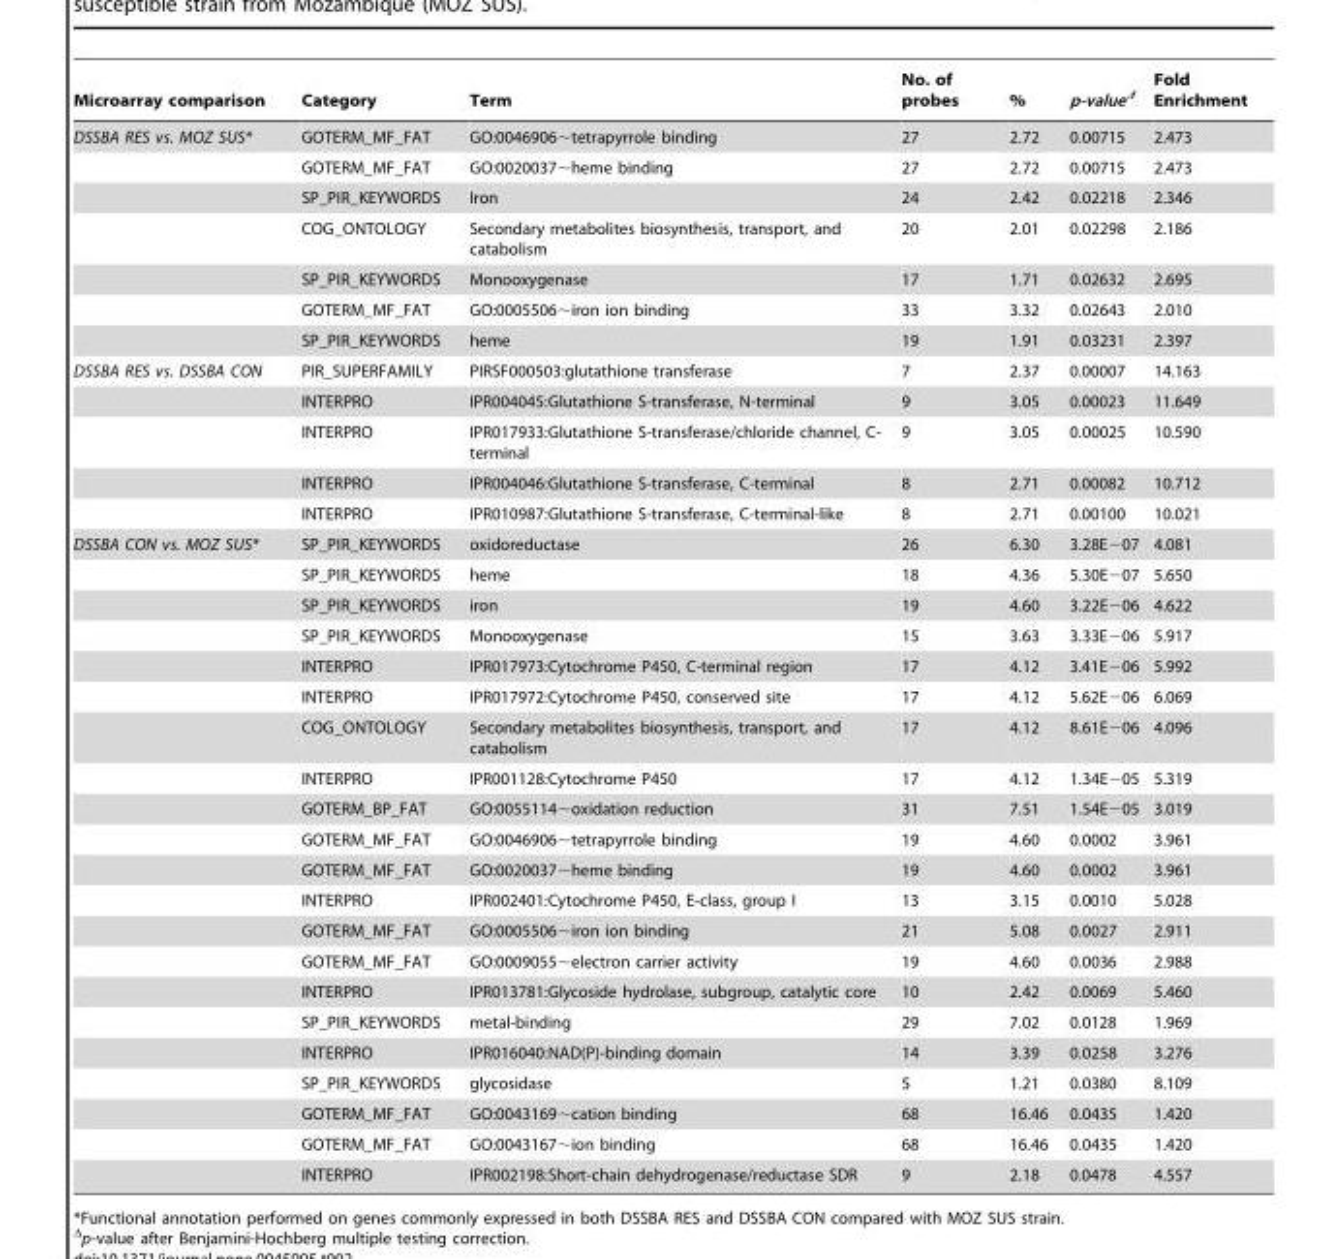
<table><thead><tr><td>Microarray comparison</td><td>Category</td><td>Term</td><td>No. of probes</td><td>%</td><td>p-valueΔ</td><td>Fold Enrichment</td></tr></thead><tbody><tr><td rowspan="7">DSSBA RES vs. MOZ SUS*</td><td>GOTERM_MF_FAT</td><td>GO:0046906∼tetrapyrrole binding</td><td>27</td><td>2.72</td><td>0.00715</td><td>2.473</td></tr><tr><td>GOTERM_MF_FAT</td><td>GO:0020037∼heme binding</td><td>27</td><td>2.72</td><td>0.00715</td><td>2.473</td></tr><tr><td>SP_PIR_KEYWORDS</td><td>Iron</td><td>24</td><td>2.42</td><td>0.02218</td><td>2.346</td></tr><tr><td>COG_ONTOLOGY</td><td>Secondary metabolites biosynthesis, transport, and catabolism</td><td>20</td><td>2.01</td><td>0.02298</td><td>2.186</td></tr><tr><td>SP_PIR_KEYWORDS</td><td>Monooxygenase</td><td>17</td><td>1.71</td><td>0.02632</td><td>2.695</td></tr><tr><td>GOTERM_MF_FAT</td><td>GO:0005506∼iron ion binding</td><td>33</td><td>3.32</td><td>0.02643</td><td>2.010</td></tr><tr><td>SP_PIR_KEYWORDS</td><td>heme</td><td>19</td><td>1.91</td><td>0.03231</td><td>2.397</td></tr><tr><td rowspan="5">DSSBA RES vs. DSSBA CON</td><td>PIR_SUPERFAMILY</td><td>PIRSF000503:glutathione transferase</td><td>7</td><td>2.37</td><td>0.00007</td><td>14.163</td></tr><tr><td>INTERPRO</td><td>IPR004045:Glutathione S-transferase, N-terminal</td><td>9</td><td>3.05</td><td>0.00023</td><td>11.649</td></tr><tr><td>INTERPRO</td><td>IPR017933:Glutathione S-transferase/chloride channel, C- terminal</td><td>9</td><td>3.05</td><td>0.00025</td><td>10.590</td></tr><tr><td>INTERPRO</td><td>IPR004046:Glutathione S-transferase, C-terminal</td><td>8</td><td>2.71</td><td>0.00082</td><td>10.712</td></tr><tr><td>INTERPRO</td><td>IPR010987:Glutathione S-transferase, C-terminal-like</td><td>8</td><td>2.71</td><td>0.00100</td><td>10.021</td></tr><tr><td rowspan="21">DSSBA CON vs. MOZ SUS*</td><td>SP_PIR_KEYWORDS</td><td>oxidoreductase</td><td>26</td><td>6.30</td><td>3.28E−07</td><td>4.081</td></tr><tr><td>SP_PIR_KEYWORDS</td><td>heme</td><td>18</td><td>4.36</td><td>5.30E−07</td><td>5.650</td></tr><tr><td>SP_PIR_KEYWORDS</td><td>iron</td><td>19</td><td>4.60</td><td>3.22E−06</td><td>4.622</td></tr><tr><td>SP_PIR_KEYWORDS</td><td>Monooxygenase</td><td>15</td><td>3.63</td><td>3.33E−06</td><td>5.917</td></tr><tr><td>INTERPRO</td><td>IPR017973:Cytochrome P450, C-terminal region</td><td>17</td><td>4.12</td><td>3.41E−06</td><td>5.992</td></tr><tr><td>INTERPRO</td><td>IPR017972:Cytochrome P450, conserved site</td><td>17</td><td>4.12</td><td>5.62E−06</td><td>6.069</td></tr><tr><td>COG_ONTOLOGY</td><td>Secondary metabolites biosynthesis, transport, and catabolism</td><td>17</td><td>4.12</td><td>8.61E−06</td><td>4.096</td></tr><tr><td>INTERPRO</td><td>IPR001128:Cytochrome P450</td><td>17</td><td>4.12</td><td>1.34E−05</td><td>5.319</td></tr><tr><td>GOTERM_BP_FAT</td><td>GO:0055114∼oxidation reduction</td><td>31</td><td>7.51</td><td>1.54E−05</td><td>3.019</td></tr><tr><td>GOTERM_MF_FAT</td><td>GO:0046906∼tetrapyrrole binding</td><td>19</td><td>4.60</td><td>0.0002</td><td>3.961</td></tr><tr><td>GOTERM_MF_FAT</td><td>GO:0020037∼heme binding</td><td>19</td><td>4.60</td><td>0.0002</td><td>3.961</td></tr><tr><td>INTERPRO</td><td>IPR002401:Cytochrome P450, E-class, group I</td><td>13</td><td>3.15</td><td>0.0010</td><td>5.028</td></tr><tr><td>GOTERM_MF_FAT</td><td>GO:0005506∼iron ion binding</td><td>21</td><td>5.08</td><td>0.0027</td><td>2.911</td></tr><tr><td>GOTERM_MF_FAT</td><td>GO:0009055∼electron carrier activity</td><td>19</td><td>4.60</td><td>0.0036</td><td>2.988</td></tr><tr><td>INTERPRO</td><td>IPR013781:Glycoside hydrolase, subgroup, catalytic core</td><td>10</td><td>2.42</td><td>0.0069</td><td>5.460</td></tr><tr><td>SP_PIR_KEYWORDS</td><td>metal-binding</td><td>29</td><td>7.02</td><td>0.0128</td><td>1.969</td></tr><tr><td>INTERPRO</td><td>IPR016040:NAD(P)-binding domain</td><td>14</td><td>3.39</td><td>0.0258</td><td>3.276</td></tr><tr><td>SP_PIR_KEYWORDS</td><td>glycosidase</td><td>5</td><td>1.21</td><td>0.0380</td><td>8.109</td></tr><tr><td>GOTERM_MF_FAT</td><td>GO:0043169∼cation binding</td><td>68</td><td>16.46</td><td>0.0435</td><td>1.420</td></tr><tr><td>GOTERM_MF_FAT</td><td>GO:0043167∼ion binding</td><td>68</td><td>16.46</td><td>0.0435</td><td>1.420</td></tr><tr><td>INTERPRO</td><td>IPR002198:Short-chain dehydrogenase/reductase SDR</td><td>9</td><td>2.18</td><td>0.0478</td><td>4.557</td></tr></tbody></table>